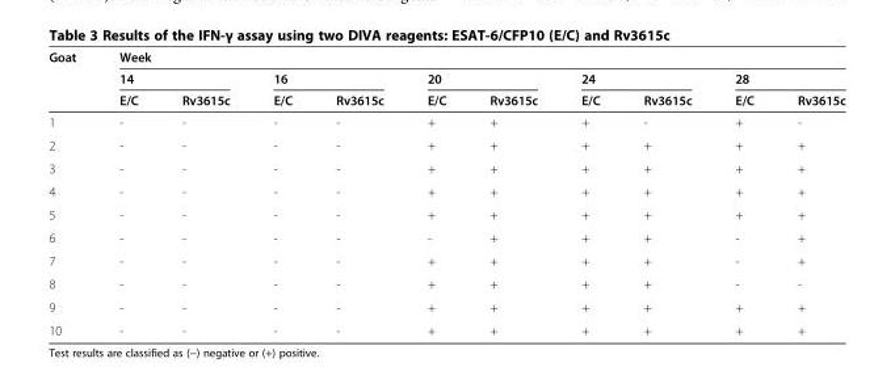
<table><thead><tr><td rowspan="3">Goat</td><td colspan="10">Week</td></tr><tr><td colspan="2">14</td><td colspan="2">16</td><td colspan="2">20</td><td colspan="2">24</td><td colspan="2">28</td></tr><tr><td>E/C</td><td>Rv3615c</td><td>E/C</td><td>Rv3615c</td><td>E/C</td><td>Rv3615c</td><td>E/C</td><td>Rv3615c</td><td>E/C</td><td>Rv3615c</td></tr></thead><tbody><tr><td>1</td><td>-</td><td>-</td><td>-</td><td>-</td><td>+</td><td>+</td><td>+</td><td>-</td><td>+</td><td>-</td></tr><tr><td>2</td><td>-</td><td>-</td><td>-</td><td>-</td><td>+</td><td>+</td><td>+</td><td>+</td><td>+</td><td>+</td></tr><tr><td>3</td><td>-</td><td>-</td><td>-</td><td>-</td><td>+</td><td>+</td><td>+</td><td>+</td><td>+</td><td>+</td></tr><tr><td>4</td><td>-</td><td>-</td><td>-</td><td>-</td><td>+</td><td>+</td><td>+</td><td>+</td><td>+</td><td>+</td></tr><tr><td>5</td><td>-</td><td>-</td><td>-</td><td>-</td><td>+</td><td>+</td><td>+</td><td>+</td><td>+</td><td>+</td></tr><tr><td>6</td><td>-</td><td>-</td><td>-</td><td>-</td><td>-</td><td>+</td><td>+</td><td>+</td><td>-</td><td>+</td></tr><tr><td>7</td><td>-</td><td>-</td><td>-</td><td>-</td><td>+</td><td>+</td><td>+</td><td>+</td><td>-</td><td>+</td></tr><tr><td>8</td><td>-</td><td>-</td><td>-</td><td>-</td><td>+</td><td>+</td><td>+</td><td>+</td><td>-</td><td>-</td></tr><tr><td>9</td><td>-</td><td>-</td><td>-</td><td>-</td><td>+</td><td>+</td><td>+</td><td>+</td><td>+</td><td>+</td></tr><tr><td>10</td><td>-</td><td>-</td><td>-</td><td>-</td><td>+</td><td>+</td><td>+</td><td>+</td><td>+</td><td>+</td></tr></tbody></table>